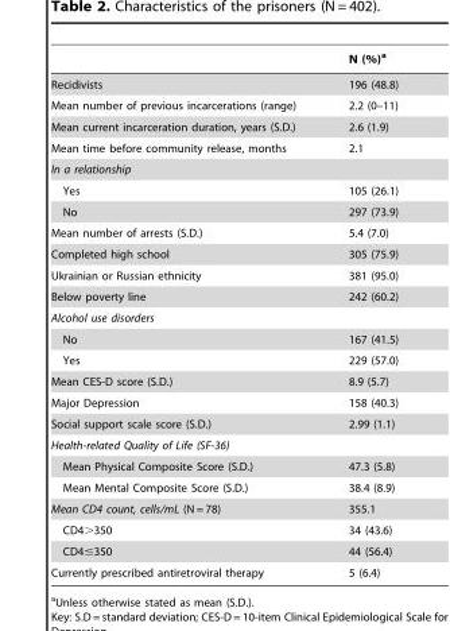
<table><thead><tr><td></td><td>N (%)<sup>a</sup></td></tr></thead><tbody><tr><td>Recidivists</td><td>196 (48.8)</td></tr><tr><td>Mean number of previous incarcerations (range)</td><td>2.2 (0–11)</td></tr><tr><td>Mean current incarceration duration, years (S.D.)</td><td>2.6 (1.9)</td></tr><tr><td>Mean time before community release, months</td><td>2.1</td></tr><tr><td colspan="2">In a relationship</td></tr><tr><td>Yes</td><td>105 (26.1)</td></tr><tr><td>No</td><td>297 (73.9)</td></tr><tr><td>Mean number of arrests (S.D.)</td><td>5.4 (7.0)</td></tr><tr><td>Completed high school</td><td>305 (75.9)</td></tr><tr><td>Ukrainian or Russian ethnicity</td><td>381 (95.0)</td></tr><tr><td>Below poverty line</td><td>242 (60.2)</td></tr><tr><td colspan="2">Alcohol use disorders</td></tr><tr><td>No</td><td>167 (41.5)</td></tr><tr><td>Yes</td><td>229 (57.0)</td></tr><tr><td>Mean CES-D score (S.D.)</td><td>8.9 (5.7)</td></tr><tr><td>Major Depression</td><td>158 (40.3)</td></tr><tr><td>Social support scale score (S.D.)</td><td>2.99 (1.1)</td></tr><tr><td colspan="2">Health-related Quality of Life (SF-36)</td></tr><tr><td>Mean Physical Composite Score (S.D.)</td><td>47.3 (5.8)</td></tr><tr><td>Mean Mental Composite Score (S.D.)</td><td>38.4 (8.9)</td></tr><tr><td>Mean CD4 count, cells/mL (N = 78)</td><td>355.1</td></tr><tr><td>CD4&gt;350</td><td>34 (43.6)</td></tr><tr><td>CD4≤350</td><td>44 (56.4)</td></tr><tr><td>Currently prescribed antiretroviral therapy</td><td>5 (6.4)</td></tr></tbody></table>